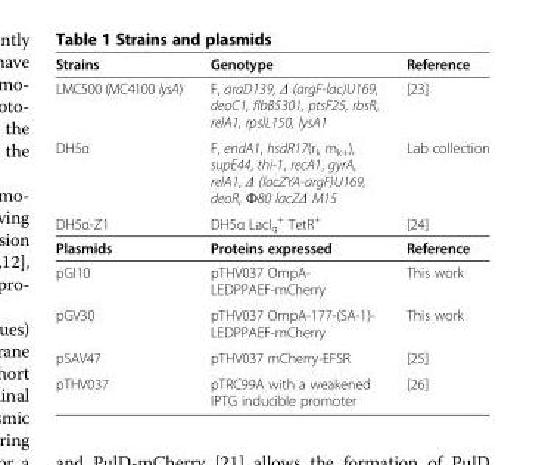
<table><thead><tr><td>Strains</td><td>Genotype</td><td>Reference</td></tr></thead><tbody><tr><td>LMC500 (MC4100 lysA)</td><td>F, araD139, Δ (argF-lac)U169, deoC1, flbB5301, ptsF25, rbsR, relA1, rpslL150, lysA1</td><td>[23]</td></tr><tr><td>DH5α</td><td>F, endA1, hsdR17(r<sub>k</sub> m<sub>k+</sub>), supE44, thi-1, recA1, gyrA, relA1, Δ (lacZYA-argF)U169, deoR, Ф80 lacZΔ M15</td><td>Lab collection</td></tr><tr><td>DH5α-Z1</td><td>DH5α LacI<sub>q</sub> <sup>+</sup> TetR<sup>+</sup></td><td>[24]</td></tr><tr><td>Plasmids</td><td>Proteins expressed</td><td>Reference</td></tr><tr><td>pGI10</td><td>pTHV037 OmpA- LEDPPAEF-mCherry</td><td>This work</td></tr><tr><td>pGV30</td><td>pTHV037 OmpA-177-(SA-1)- LEDPPAEF-mCherry</td><td>This work</td></tr><tr><td>pSAV47</td><td>pTHV037 mCherry-EFSR</td><td>[25]</td></tr><tr><td>pTHV037</td><td>pTRC99A with a weakened IPTG inducible promoter</td><td>[26]</td></tr></tbody></table>